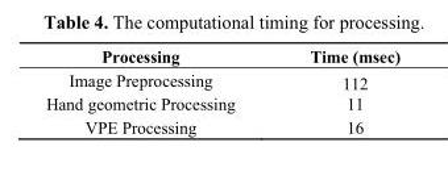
<table><thead><tr><td>Processing</td><td>Time (msec)</td></tr></thead><tbody><tr><td>Image Preprocessing</td><td>112</td></tr><tr><td>Hand geometric Processing</td><td>11</td></tr><tr><td>VPE Processing</td><td>16</td></tr></tbody></table>